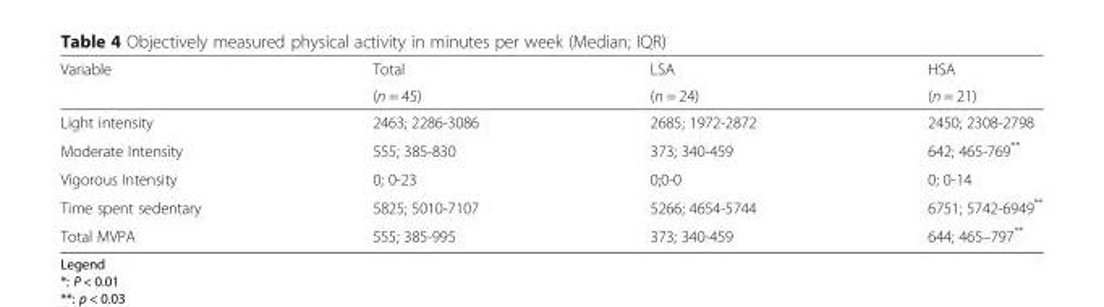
<table><thead><tr><td rowspan="2">Variable</td><td rowspan="2">Total (n = 45)</td><td rowspan="2">LSA (n = 24)</td><td rowspan="2">HSA (n = 21)</td></tr><tr></tr></thead><tbody><tr><td>Light intensity</td><td>2463; 2286-3086</td><td>2685; 1972-2872</td><td>2450; 2308-2798</td></tr><tr><td>Moderate Intensity</td><td>555; 385-830</td><td>373; 340-459</td><td>642; 465-769**</td></tr><tr><td>Vigorous Intensity</td><td>0; 0-23</td><td>0;0-0</td><td>0; 0-14</td></tr><tr><td>Time spent sedentary</td><td>5825; 5010-7107</td><td>5266; 4654-5744</td><td>6751; 5742-6949**</td></tr><tr><td>Total MVPA</td><td>555; 385-995</td><td>373; 340-459</td><td>644; 465–797**</td></tr></tbody></table>